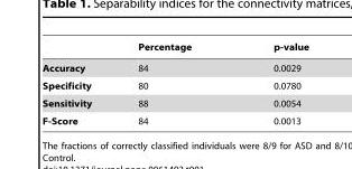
<table><thead><tr><td></td><td>Percentage</td><td>p-value</td></tr></thead><tbody><tr><td>Accuracy</td><td>84</td><td>0.0029</td></tr><tr><td>Specificity</td><td>80</td><td>0.0780</td></tr><tr><td>Sensitivity</td><td>88</td><td>0.0054</td></tr><tr><td>F-Score</td><td>84</td><td>0.0013</td></tr></tbody></table>